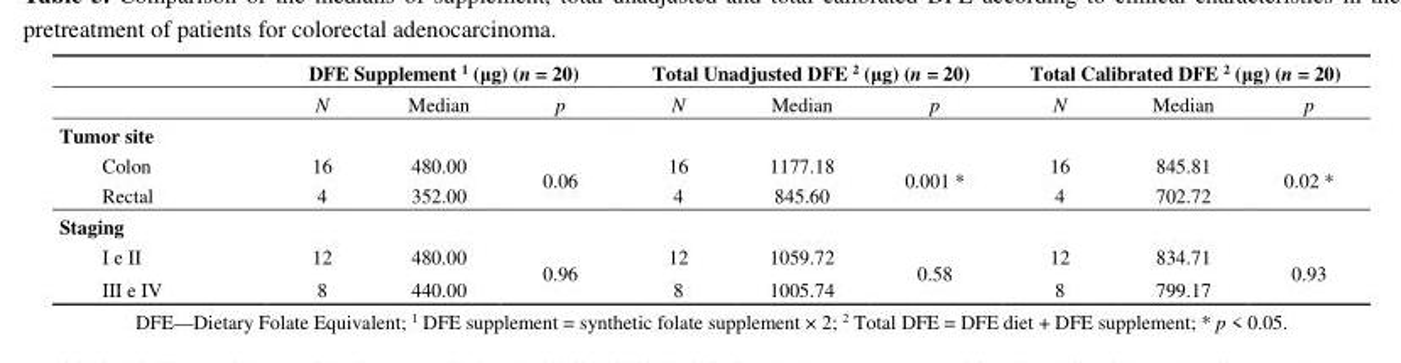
<table><thead><tr><td rowspan="2"></td><td colspan="3">DFE Supplement <sup>1</sup> (μg) (n = 20)</td><td colspan="3">Total Unadjusted DFE <sup>2</sup> (μg) (n = 20)</td><td colspan="3">Total Calibrated DFE <sup>2</sup> (μg) (n = 20)</td></tr><tr><td>N</td><td>Median</td><td>p</td><td>N</td><td>Median</td><td>p</td><td>N</td><td>Median</td><td>p</td></tr></thead><tbody><tr><td colspan="10">Tumor site</td></tr><tr><td>Colon</td><td>16</td><td>480.00</td><td rowspan="2">0.06</td><td>16</td><td>1177.18</td><td rowspan="2">0.001 *</td><td>16</td><td>845.81</td><td rowspan="2">0.02 *</td></tr><tr><td>Rectal</td><td>4</td><td>352.00</td><td>4</td><td>845.60</td><td>4</td><td>702.72</td></tr><tr><td colspan="10">Staging</td></tr><tr><td>I e II</td><td>12</td><td>480.00</td><td rowspan="2">0.96</td><td>12</td><td>1059.72</td><td rowspan="2">0.58</td><td>12</td><td>834.71</td><td rowspan="2">0.93</td></tr><tr><td>III e IV</td><td>8</td><td>440.00</td><td>8</td><td>1005.74</td><td>8</td><td>799.17</td></tr></tbody></table>